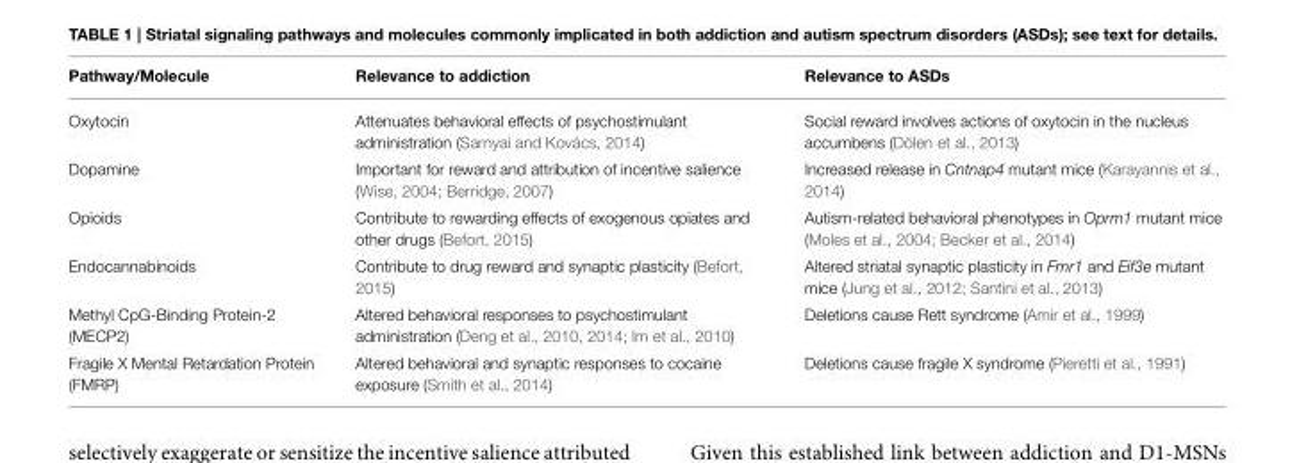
<table><thead><tr><td>Pathway/Molecule</td><td>Relevance to addiction</td><td>Relevance to ASDs</td></tr></thead><tbody><tr><td>Oxytocin</td><td>Attenuates behavioral effects of psychostimulant administration (Sarnyai and Kovács, 2014)</td><td>Social reward involves actions of oxytocin in the nucleus accumbens (Dölen et al., 2013)</td></tr><tr><td>Dopamine</td><td>Important for reward and attribution of incentive salience (Wise, 2004; Berridge, 2007)</td><td>Increased release in Cntnap4 mutant mice (Karayannis et al., 2014)</td></tr><tr><td>Opioids</td><td>Contribute to rewarding effects of exogenous opiates and other drugs (Befort, 2015)</td><td>Autism-related behavioral phenotypes in Oprm1 mutant mice (Moles et al., 2004; Becker et al., 2014)</td></tr><tr><td>Endocannabinoids</td><td>Contribute to drug reward and synaptic plasticity (Befort, 2015)</td><td>Altered striatal synaptic plasticity in Fmr1 and Eif3e mutant mice (Jung et al., 2012; Santini et al., 2013)</td></tr><tr><td>Methyl CpG-Binding Protein-2 (MECP2)</td><td>Altered behavioral responses to psychostimulant administration (Deng et al., 2010, 2014; Im et al., 2010)</td><td>Deletions cause Rett syndrome (Amir et al., 1999)</td></tr><tr><td>Fragile X Mental Retardation Protein (FMRP)</td><td>Altered behavioral and synaptic responses to cocaine exposure (Smith et al., 2014)</td><td>Deletions cause fragile X syndrome (Pieretti et al., 1991)</td></tr></tbody></table>